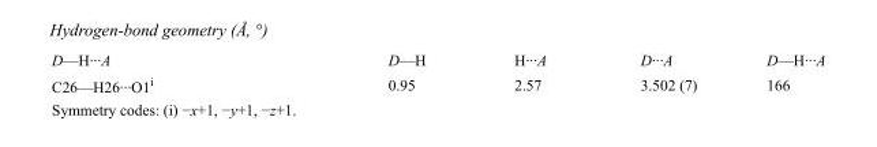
<table><tbody><tr><td>D—H···A</td><td>D—H</td><td>H···A</td><td>D···A</td><td>D—H···A</td></tr><tr><td>C26—H26···O1<sup>i</sup></td><td>0.95</td><td>2.57</td><td>3.502 (7)</td><td>166</td></tr></tbody></table>